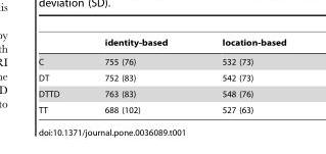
<table><thead><tr><td></td><td>identity-based</td><td>location-based</td></tr></thead><tbody><tr><td>C</td><td>755 (76)</td><td>532 (73)</td></tr><tr><td>DT</td><td>752 (83)</td><td>542 (73)</td></tr><tr><td>DTTD</td><td>763 (83)</td><td>548 (76)</td></tr><tr><td>TT</td><td>688 (102)</td><td>527 (63)</td></tr></tbody></table>